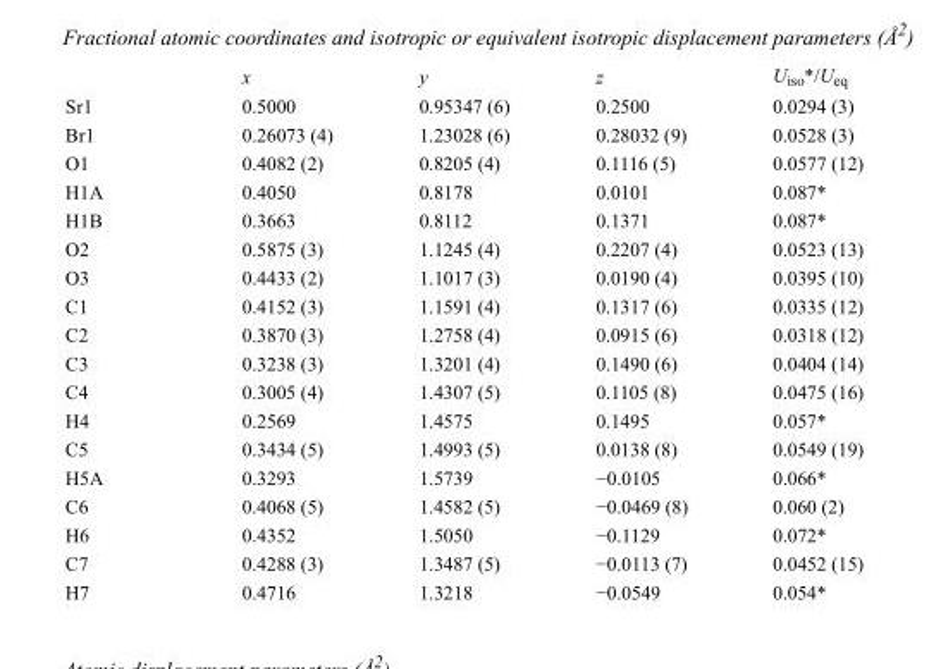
<table><thead><tr><td></td><td>x</td><td>y</td><td>z</td><td>U<sub>iso</sub>*/U<sub>eq</sub></td></tr></thead><tbody><tr><td>Sr1</td><td>0.5000</td><td>0.95347 (6)</td><td>0.2500</td><td>0.0294 (3)</td></tr><tr><td>Br1</td><td>0.26073 (4)</td><td>1.23028 (6)</td><td>0.28032 (9)</td><td>0.0528 (3)</td></tr><tr><td>O1</td><td>0.4082 (2)</td><td>0.8205 (4)</td><td>0.1116 (5)</td><td>0.0577 (12)</td></tr><tr><td>H1A</td><td>0.4050</td><td>0.8178</td><td>0.0101</td><td>0.087*</td></tr><tr><td>H1B</td><td>0.3663</td><td>0.8112</td><td>0.1371</td><td>0.087*</td></tr><tr><td>O2</td><td>0.5875 (3)</td><td>1.1245 (4)</td><td>0.2207 (4)</td><td>0.0523 (13)</td></tr><tr><td>O3</td><td>0.4433 (2)</td><td>1.1017 (3)</td><td>0.0190 (4)</td><td>0.0395 (10)</td></tr><tr><td>C1</td><td>0.4152 (3)</td><td>1.1591 (4)</td><td>0.1317 (6)</td><td>0.0335 (12)</td></tr><tr><td>C2</td><td>0.3870 (3)</td><td>1.2758 (4)</td><td>0.0915 (6)</td><td>0.0318 (12)</td></tr><tr><td>C3</td><td>0.3238 (3)</td><td>1.3201 (4)</td><td>0.1490 (6)</td><td>0.0404 (14)</td></tr><tr><td>C4</td><td>0.3005 (4)</td><td>1.4307 (5)</td><td>0.1105 (8)</td><td>0.0475 (16)</td></tr><tr><td>H4</td><td>0.2569</td><td>1.4575</td><td>0.1495</td><td>0.057*</td></tr><tr><td>C5</td><td>0.3434 (5)</td><td>1.4993 (5)</td><td>0.0138 (8)</td><td>0.0549 (19)</td></tr><tr><td>H5A</td><td>0.3293</td><td>1.5739</td><td>−0.0105</td><td>0.066*</td></tr><tr><td>C6</td><td>0.4068 (5)</td><td>1.4582 (5)</td><td>−0.0469 (8)</td><td>0.060 (2)</td></tr><tr><td>H6</td><td>0.4352</td><td>1.5050</td><td>−0.1129</td><td>0.072*</td></tr><tr><td>C7</td><td>0.4288 (3)</td><td>1.3487 (5)</td><td>−0.0113 (7)</td><td>0.0452 (15)</td></tr><tr><td>H7</td><td>0.4716</td><td>1.3218</td><td>−0.0549</td><td>0.054*</td></tr></tbody></table>